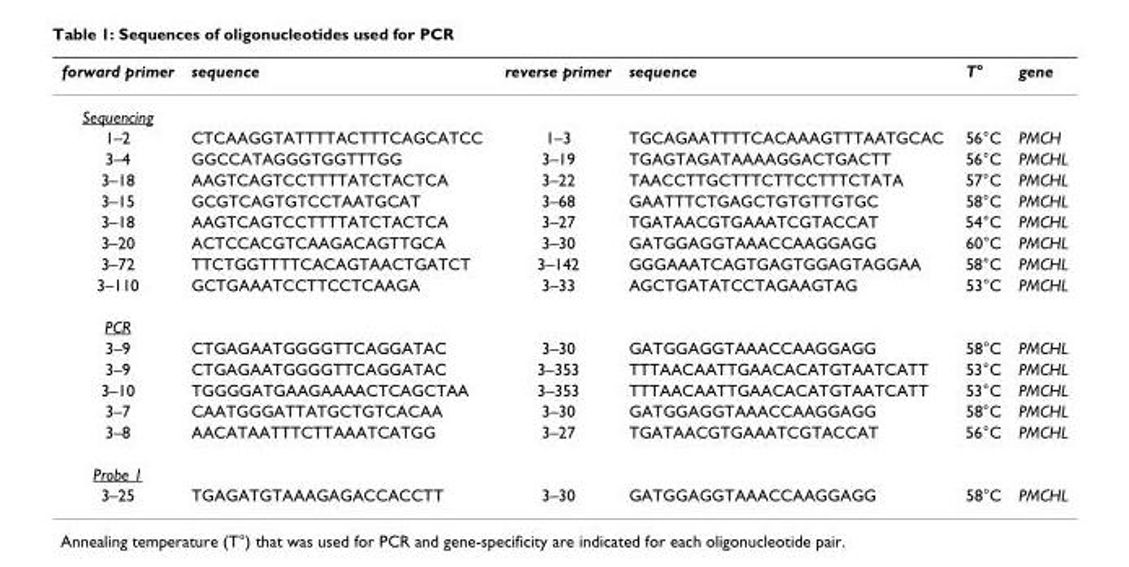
<table><thead><tr><td>forward primer</td><td>sequence</td><td>reverse primer</td><td>sequence</td><td>T°</td><td>gene</td></tr></thead><tbody><tr><td colspan="6">Sequencing</td></tr><tr><td>1–2</td><td>CTCAAGGTATTTTACTTTCAGCATCC</td><td>1–3</td><td>TGCAGAATTTTCACAAAGTTTAATGCAC</td><td>56°C</td><td>PMCH</td></tr><tr><td>3–4</td><td>GGCCATAGGGTGGTTTGG</td><td>3–19</td><td>TGAGTAGATAAAAGGACTGACTT</td><td>56°C</td><td>PMCHL</td></tr><tr><td>3–18</td><td>AAGTCAGTCCTTTTATCTACTCA</td><td>3–22</td><td>TAACCTTGCTTTCTTCCTTTCTATA</td><td>57°C</td><td>PMCHL</td></tr><tr><td>3–15</td><td>GCGTCAGTGTCCTAATGCAT</td><td>3–68</td><td>GAATTTCTGAGCTGTGTTGTGC</td><td>58°C</td><td>PMCHL</td></tr><tr><td>3–18</td><td>AAGTCAGTCCTTTTATCTACTCA</td><td>3–27</td><td>TGATAACGTGAAATCGTACCAT</td><td>54°C</td><td>PMCHL</td></tr><tr><td>3–20</td><td>ACTCCACGTCAAGACAGTTGCA</td><td>3–30</td><td>GATGGAGGTAAACCAAGGAGG</td><td>60°C</td><td>PMCHL</td></tr><tr><td>3–72</td><td>TTCTGGTTTTCACAGTAACTGATCT</td><td>3–142</td><td>GGGAAATCAGTGAGTGGAGTAGGAA</td><td>58°C</td><td>PMCHL</td></tr><tr><td>3–110</td><td>GCTGAAATCCTTCCTCAAGA</td><td>3–33</td><td>AGCTGATATCCTAGAAGTAG</td><td>53°C</td><td>PMCHL</td></tr><tr><td colspan="6">PCR</td></tr><tr><td>3–9</td><td>CTGAGAATGGGGTTCAGGATAC</td><td>3–30</td><td>GATGGAGGTAAACCAAGGAGG</td><td>58°C</td><td>PMCHL</td></tr><tr><td>3–9</td><td>CTGAGAATGGGGTTCAGGATAC</td><td>3–353</td><td>TTTAACAATTGAACACATGTAATCATT</td><td>53°C</td><td>PMCHL</td></tr><tr><td>3–10</td><td>TGGGGATGAAGAAAACTCAGCTAA</td><td>3–353</td><td>TTTAACAATTGAACACATGTAATCATT</td><td>53°C</td><td>PMCHL</td></tr><tr><td>3–7</td><td>CAATGGGATTATGCTGTCACAA</td><td>3–30</td><td>GATGGAGGTAAACCAAGGAGG</td><td>58°C</td><td>PMCHL</td></tr><tr><td>3–8</td><td>AACATAATTTCTTAAATCATGG</td><td>3–27</td><td>TGATAACGTGAAATCGTACCAT</td><td>56°C</td><td>PMCHL</td></tr><tr><td colspan="6">Probe 1</td></tr><tr><td>3–25</td><td>TGAGATGTAAAGAGACCACCTT</td><td>3–30</td><td>GATGGAGGTAAACCAAGGAGG</td><td>58°C</td><td>PMCHL</td></tr></tbody></table>